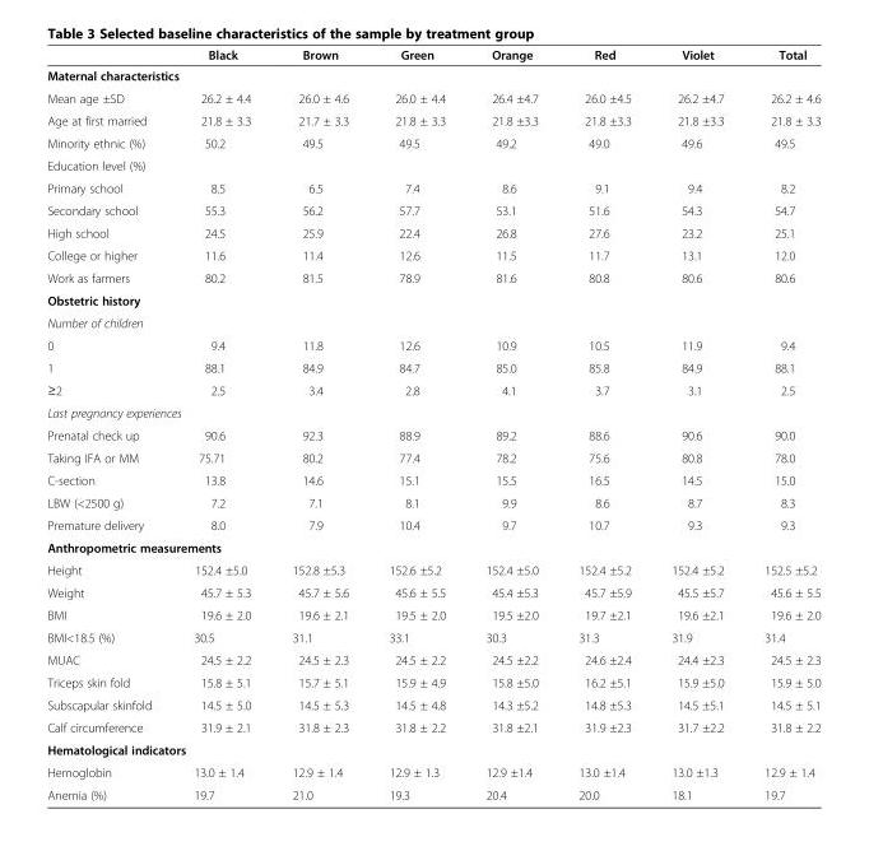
<table><thead><tr><td></td><td>Black</td><td>Brown</td><td>Green</td><td>Orange</td><td>Red</td><td>Violet</td><td>Total</td></tr></thead><tbody><tr><td colspan="8">Maternal characteristics</td></tr><tr><td>Mean age ±SD</td><td>26.2 ± 4.4</td><td>26.0 ± 4.6</td><td>26.0 ± 4.4</td><td>26.4 ±4.7</td><td>26.0 ±4.5</td><td>26.2 ±4.7</td><td>26.2 ± 4.6</td></tr><tr><td>Age at first married</td><td>21.8 ± 3.3</td><td>21.7 ± 3.3</td><td>21.8 ± 3.3</td><td>21.8 ±3.3</td><td>21.8 ±3.3</td><td>21.8 ±3.3</td><td>21.8 ± 3.3</td></tr><tr><td>Minority ethnic (%)</td><td>50.2</td><td>49.5</td><td>49.5</td><td>49.2</td><td>49.0</td><td>49.6</td><td>49.5</td></tr><tr><td colspan="8">Education level (%)</td></tr><tr><td>Primary school</td><td>8.5</td><td>6.5</td><td>7.4</td><td>8.6</td><td>9.1</td><td>9.4</td><td>8.2</td></tr><tr><td>Secondary school</td><td>55.3</td><td>56.2</td><td>57.7</td><td>53.1</td><td>51.6</td><td>54.3</td><td>54.7</td></tr><tr><td>High school</td><td>24.5</td><td>25.9</td><td>22.4</td><td>26.8</td><td>27.6</td><td>23.2</td><td>25.1</td></tr><tr><td>College or higher</td><td>11.6</td><td>11.4</td><td>12.6</td><td>11.5</td><td>11.7</td><td>13.1</td><td>12.0</td></tr><tr><td>Work as farmers</td><td>80.2</td><td>81.5</td><td>78.9</td><td>81.6</td><td>80.8</td><td>80.6</td><td>80.6</td></tr><tr><td colspan="8">Obstetric history</td></tr><tr><td colspan="8">Number of children</td></tr><tr><td>0</td><td>9.4</td><td>11.8</td><td>12.6</td><td>10.9</td><td>10.5</td><td>11.9</td><td>9.4</td></tr><tr><td>1</td><td>88.1</td><td>84.9</td><td>84.7</td><td>85.0</td><td>85.8</td><td>84.9</td><td>88.1</td></tr><tr><td>≥2</td><td>2.5</td><td>3.4</td><td>2.8</td><td>4.1</td><td>3.7</td><td>3.1</td><td>2.5</td></tr><tr><td colspan="8">Last pregnancy experiences</td></tr><tr><td>Prenatal check up</td><td>90.6</td><td>92.3</td><td>88.9</td><td>89.2</td><td>88.6</td><td>90.6</td><td>90.0</td></tr><tr><td>Taking IFA or MM</td><td>75.71</td><td>80.2</td><td>77.4</td><td>78.2</td><td>75.6</td><td>80.8</td><td>78.0</td></tr><tr><td>C-section</td><td>13.8</td><td>14.6</td><td>15.1</td><td>15.5</td><td>16.5</td><td>14.5</td><td>15.0</td></tr><tr><td>LBW (&lt;2500 g)</td><td>7.2</td><td>7.1</td><td>8.1</td><td>9.9</td><td>8.6</td><td>8.7</td><td>8.3</td></tr><tr><td>Premature delivery</td><td>8.0</td><td>7.9</td><td>10.4</td><td>9.7</td><td>10.7</td><td>9.3</td><td>9.3</td></tr><tr><td colspan="8">Anthropometric measurements</td></tr><tr><td>Height</td><td>152.4 ±5.0</td><td>152.8 ±5.3</td><td>152.6 ±5.2</td><td>152.4 ±5.0</td><td>152.4 ±5.2</td><td>152.4 ±5.2</td><td>152.5 ±5.2</td></tr><tr><td>Weight</td><td>45.7 ± 5.3</td><td>45.7 ± 5.6</td><td>45.6 ± 5.5</td><td>45.4 ±5.3</td><td>45.7 ±5.9</td><td>45.5 ±5.7</td><td>45.6 ± 5.5</td></tr><tr><td>BMI</td><td>19.6 ± 2.0</td><td>19.6 ± 2.1</td><td>19.5 ± 2.0</td><td>19.5 ±2.0</td><td>19.7 ±2.1</td><td>19.6 ±2.1</td><td>19.6 ± 2.0</td></tr><tr><td>BMI&lt;18.5 (%)</td><td>30.5</td><td>31.1</td><td>33.1</td><td>30.3</td><td>31.3</td><td>31.9</td><td>31.4</td></tr><tr><td>MUAC</td><td>24.5 ± 2.2</td><td>24.5 ± 2.3</td><td>24.5 ± 2.2</td><td>24.5 ±2.2</td><td>24.6 ±2.4</td><td>24.4 ±2.3</td><td>24.5 ± 2.3</td></tr><tr><td>Triceps skin fold</td><td>15.8 ± 5.1</td><td>15.7 ± 5.1</td><td>15.9 ± 4.9</td><td>15.8 ±5.0</td><td>16.2 ±5.1</td><td>15.9 ±5.0</td><td>15.9 ± 5.0</td></tr><tr><td>Subscapular skinfold</td><td>14.5 ± 5.0</td><td>14.5 ± 5.3</td><td>14.5 ± 4.8</td><td>14.3 ±5.2</td><td>14.8 ±5.3</td><td>14.5 ±5.1</td><td>14.5 ± 5.1</td></tr><tr><td>Calf circumference</td><td>31.9 ± 2.1</td><td>31.8 ± 2.3</td><td>31.8 ± 2.2</td><td>31.8 ±2.1</td><td>31.9 ±2.3</td><td>31.7 ±2.2</td><td>31.8 ± 2.2</td></tr><tr><td colspan="8">Hematological indicators</td></tr><tr><td>Hemoglobin</td><td>13.0 ± 1.4</td><td>12.9 ± 1.4</td><td>12.9 ± 1.3</td><td>12.9 ±1.4</td><td>13.0 ±1.4</td><td>13.0 ±1.3</td><td>12.9 ± 1.4</td></tr><tr><td>Anemia (%)</td><td>19.7</td><td>21.0</td><td>19.3</td><td>20.4</td><td>20.0</td><td>18.1</td><td>19.7</td></tr></tbody></table>